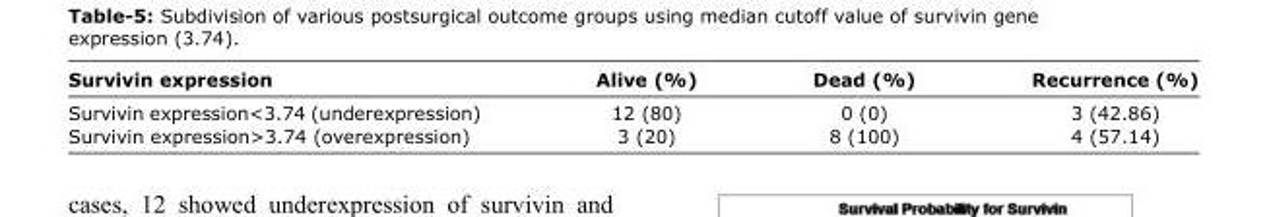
<table><thead><tr><td>Survivin expression</td><td>Alive (%)</td><td>Dead (%)</td><td>Recurrence (%)</td></tr></thead><tbody><tr><td>Survivin expression&lt;3.74 (underexpression)</td><td>12 (80)</td><td>0 (0)</td><td>3 (42.86)</td></tr><tr><td>Survivin expression&gt;3.74 (overexpression)</td><td>3 (20)</td><td>8 (100)</td><td>4 (57.14)</td></tr></tbody></table>